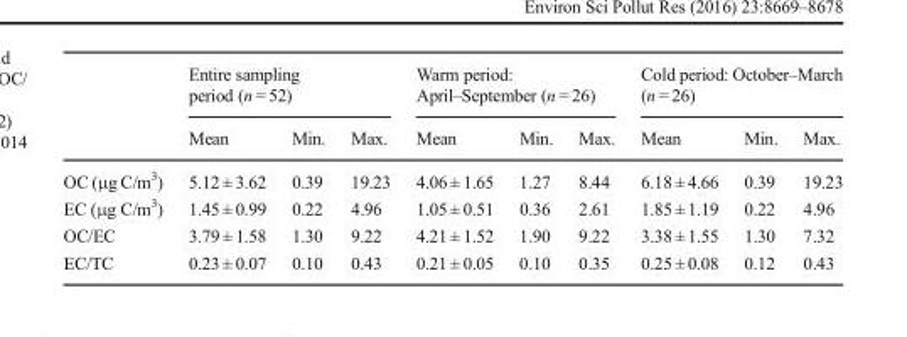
<table><thead><tr><td rowspan="2"></td><td colspan="3">Entire sampling period (n = 52)</td><td colspan="3">Warm period: April–September (n = 26)</td><td colspan="3">Cold period: October–March (n = 26)</td></tr><tr><td>Mean</td><td>Min.</td><td>Max.</td><td>Mean</td><td>Min.</td><td>Max.</td><td>Mean</td><td>Min.</td><td>Max.</td></tr></thead><tbody><tr><td>OC (μg C/m<sup>3</sup>)</td><td>5.12 ± 3.62</td><td>0.39</td><td>19.23</td><td>4.06 ± 1.65</td><td>1.27</td><td>8.44</td><td>6.18 ± 4.66</td><td>0.39</td><td>19.23</td></tr><tr><td>EC (μg C/m<sup>3</sup>)</td><td>1.45 ± 0.99</td><td>0.22</td><td>4.96</td><td>1.05 ± 0.51</td><td>0.36</td><td>2.61</td><td>1.85 ± 1.19</td><td>0.22</td><td>4.96</td></tr><tr><td>OC/EC</td><td>3.79 ± 1.58</td><td>1.30</td><td>9.22</td><td>4.21 ± 1.52</td><td>1.90</td><td>9.22</td><td>3.38 ± 1.55</td><td>1.30</td><td>7.32</td></tr><tr><td>EC/TC</td><td>0.23 ± 0.07</td><td>0.10</td><td>0.43</td><td>0.21 ± 0.05</td><td>0.10</td><td>0.35</td><td>0.25 ± 0.08</td><td>0.12</td><td>0.43</td></tr></tbody></table>